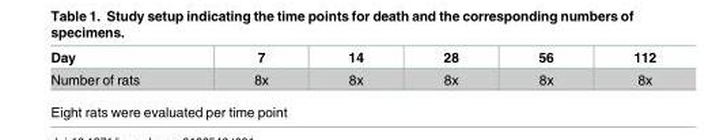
<table><thead><tr><td>Day</td><td>7</td><td>14</td><td>28</td><td>56</td><td>112</td></tr></thead><tbody><tr><td>Number of rats</td><td>8x</td><td>8x</td><td>8x</td><td>8x</td><td>8x</td></tr></tbody></table>